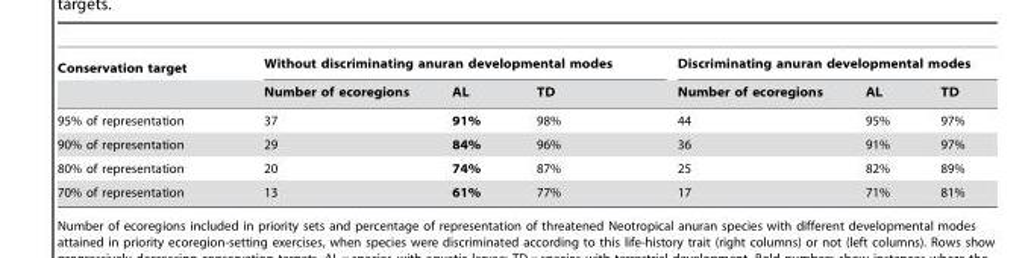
<table><thead><tr><td rowspan="2">Conservation target</td><td colspan="3">Without discriminating anuran developmental modes</td><td colspan="3">Discriminating anuran developmental modes</td></tr><tr><td>Number of ecoregions</td><td>AL</td><td>TD</td><td>Number of ecoregions</td><td>AL</td><td>TD</td></tr></thead><tbody><tr><td>95% of representation</td><td>37</td><td>91%</td><td>98%</td><td>44</td><td>95%</td><td>97%</td></tr><tr><td>90% of representation</td><td>29</td><td>84%</td><td>96%</td><td>36</td><td>91%</td><td>97%</td></tr><tr><td>80% of representation</td><td>20</td><td>74%</td><td>87%</td><td>25</td><td>82%</td><td>89%</td></tr><tr><td>70% of representation</td><td>13</td><td>61%</td><td>77%</td><td>17</td><td>71%</td><td>81%</td></tr></tbody></table>